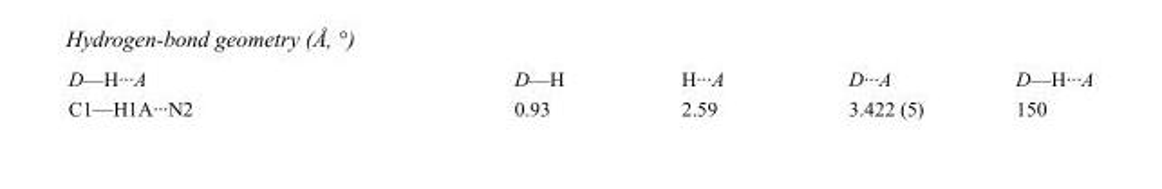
<table><tbody><tr><td>D—H···A</td><td>D—H</td><td>H···A</td><td>D···A</td><td>D—H···A</td></tr><tr><td>C1—H1A···N2</td><td>0.93</td><td>2.59</td><td>3.422 (5)</td><td>150</td></tr></tbody></table>